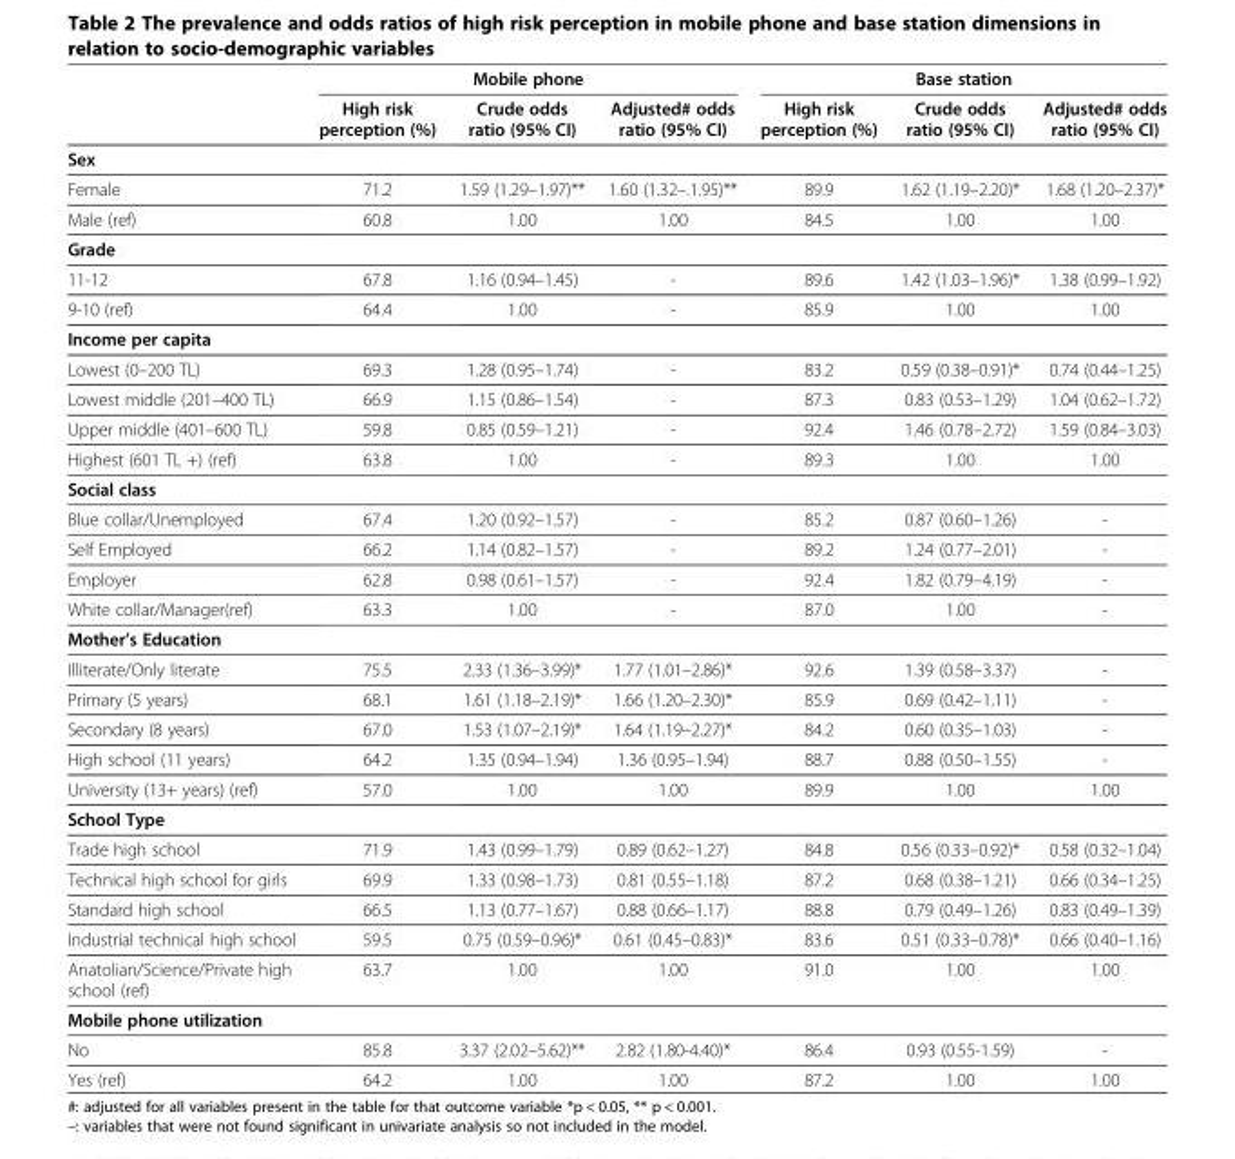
<table><thead><tr><td rowspan="2"></td><td rowspan="2">High risk perception (%)</td><td rowspan="2">Mobile phone Crude odds ratio (95% CI)</td><td rowspan="2">Adjusted# odds ratio (95% CI)</td><td rowspan="2">High risk perception (%)</td><td rowspan="2">Base station Crude odds ratio (95% CI)</td><td rowspan="2">Adjusted# odds ratio (95% CI)</td></tr><tr></tr></thead><tbody><tr><td colspan="7">Sex</td></tr><tr><td>Female</td><td>71.2</td><td>1.59 (1.29–1.97)**</td><td>1.60 (1.32–.1.95)**</td><td>89.9</td><td>1.62 (1.19–2.20)*</td><td>1.68 (1.20–2.37)*</td></tr><tr><td>Male (ref)</td><td>60.8</td><td>1.00</td><td>1.00</td><td>84.5</td><td>1.00</td><td>1.00</td></tr><tr><td colspan="7">Grade</td></tr><tr><td>11-12</td><td>67.8</td><td>1.16 (0.94–1.45)</td><td>-</td><td>89.6</td><td>1.42 (1.03–1.96)*</td><td>1.38 (0.99–1.92)</td></tr><tr><td>9-10 (ref)</td><td>64.4</td><td>1.00</td><td>-</td><td>85.9</td><td>1.00</td><td>1.00</td></tr><tr><td colspan="7">Income per capita</td></tr><tr><td>Lowest (0–200 TL)</td><td>69.3</td><td>1.28 (0.95–1.74)</td><td>-</td><td>83.2</td><td>0.59 (0.38–0.91)*</td><td>0.74 (0.44–1.25)</td></tr><tr><td>Lowest middle (201–400 TL)</td><td>66.9</td><td>1.15 (0.86–1.54)</td><td>-</td><td>87.3</td><td>0.83 (0.53–1.29)</td><td>1.04 (0.62–1.72)</td></tr><tr><td>Upper middle (401–600 TL)</td><td>59.8</td><td>0.85 (0.59–1.21)</td><td>-</td><td>92.4</td><td>1.46 (0.78–2.72)</td><td>1.59 (0.84–3.03)</td></tr><tr><td>Highest (601 TL +) (ref)</td><td>63.8</td><td>1.00</td><td>-</td><td>89.3</td><td>1.00</td><td>1.00</td></tr><tr><td colspan="7">Social class</td></tr><tr><td>Blue collar/Unemployed</td><td>67.4</td><td>1.20 (0.92–1.57)</td><td>-</td><td>85.2</td><td>0.87 (0.60–1.26)</td><td>-</td></tr><tr><td>Self Employed</td><td>66.2</td><td>1.14 (0.82–1.57)</td><td>-</td><td>89.2</td><td>1.24 (0.77–2.01)</td><td>-</td></tr><tr><td>Employer</td><td>62.8</td><td>0.98 (0.61–1.57)</td><td>-</td><td>92.4</td><td>1.82 (0.79–4.19)</td><td>-</td></tr><tr><td>White collar/Manager(ref)</td><td>63.3</td><td>1.00</td><td>-</td><td>87.0</td><td>1.00</td><td>-</td></tr><tr><td colspan="7">Mother’s Education</td></tr><tr><td>Illiterate/Only literate</td><td>75.5</td><td>2.33 (1.36–3.99)*</td><td>1.77 (1.01–2.86)*</td><td>92.6</td><td>1.39 (0.58–3.37)</td><td>-</td></tr><tr><td>Primary (5 years)</td><td>68.1</td><td>1.61 (1.18–2.19)*</td><td>1.66 (1.20–2.30)*</td><td>85.9</td><td>0.69 (0.42–1.11)</td><td>-</td></tr><tr><td>Secondary (8 years)</td><td>67.0</td><td>1.53 (1.07–2.19)*</td><td>1.64 (1.19–2.27)*</td><td>84.2</td><td>0.60 (0.35–1.03)</td><td>-</td></tr><tr><td>High school (11 years)</td><td>64.2</td><td>1.35 (0.94–1.94)</td><td>1.36 (0.95–1.94)</td><td>88.7</td><td>0.88 (0.50–1.55)</td><td>-</td></tr><tr><td>University (13+ years) (ref)</td><td>57.0</td><td>1.00</td><td>1.00</td><td>89.9</td><td>1.00</td><td>1.00</td></tr><tr><td colspan="7">School Type</td></tr><tr><td>Trade high school</td><td>71.9</td><td>1.43 (0.99–1.79)</td><td>0.89 (0.62–1.27)</td><td>84.8</td><td>0.56 (0.33–0.92)*</td><td>0.58 (0.32–1.04)</td></tr><tr><td>Technical high school for girls</td><td>69.9</td><td>1.33 (0.98–1.73)</td><td>0.81 (0.55–1.18)</td><td>87.2</td><td>0.68 (0.38–1.21)</td><td>0.66 (0.34–1.25)</td></tr><tr><td>Standard high school</td><td>66.5</td><td>1.13 (0.77–1.67)</td><td>0.88 (0.66–1.17)</td><td>88.8</td><td>0.79 (0.49–1.26)</td><td>0.83 (0.49–1.39)</td></tr><tr><td>Industrial technical high school</td><td>59.5</td><td>0.75 (0.59–0.96)*</td><td>0.61 (0.45–0.83)*</td><td>83.6</td><td>0.51 (0.33–0.78)*</td><td>0.66 (0.40–1.16)</td></tr><tr><td>Anatolian/Science/Private high school (ref)</td><td>63.7</td><td>1.00</td><td>1.00</td><td>91.0</td><td>1.00</td><td>1.00</td></tr><tr><td colspan="7">Mobile phone utilization</td></tr><tr><td>No</td><td>85.8</td><td>3.37 (2.02–5.62)**</td><td>2.82 (1.80-4.40)*</td><td>86.4</td><td>0.93 (0.55-1.59)</td><td>-</td></tr><tr><td>Yes (ref)</td><td>64.2</td><td>1.00</td><td>1.00</td><td>87.2</td><td>1.00</td><td>1.00</td></tr></tbody></table>